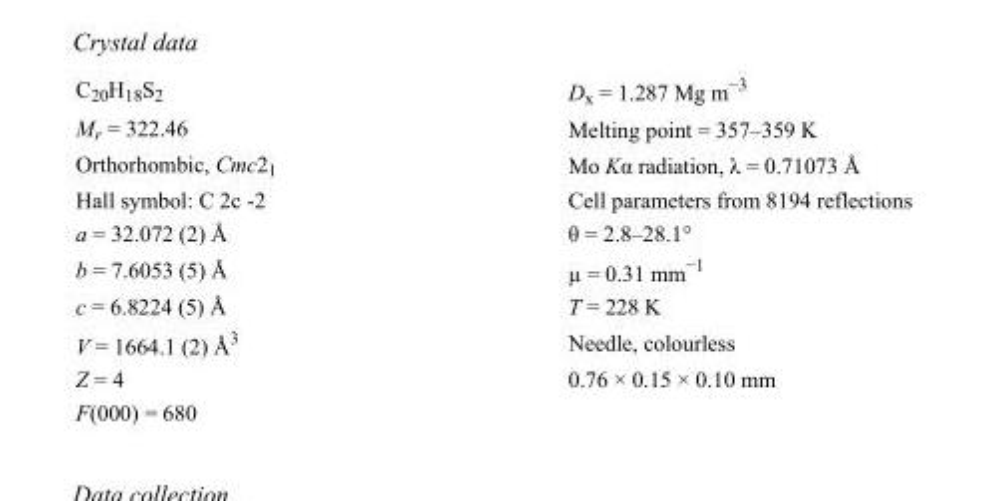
<table><tbody><tr><td>C<sub>20</sub>H<sub>18</sub>S<sub>2</sub></td><td>D<sub>x</sub> = 1.287 Mg m<sup>−3</sup></td></tr><tr><td>M<sub>r</sub> = 322.46</td><td>Melting point = 357–359 K</td></tr><tr><td>Orthorhombic, Cmc2<sub>1</sub></td><td>Mo Kα radiation, λ = 0.71073 Å</td></tr><tr><td>Hall symbol: C 2c -2</td><td>Cell parameters from 8194 reflections</td></tr><tr><td>a = 32.072 (2) Å</td><td>θ = 2.8–28.1°</td></tr><tr><td>b = 7.6053 (5) Å</td><td>µ = 0.31 mm<sup>−1</sup></td></tr><tr><td>c = 6.8224 (5) Å</td><td>T = 228 K</td></tr><tr><td>V = 1664.1 (2) Å<sup>3</sup></td><td>Needle, colourless</td></tr><tr><td>Z = 4</td><td>0.76 × 0.15 × 0.10 mm</td></tr><tr><td>F(000) = 680</td><td></td></tr></tbody></table>